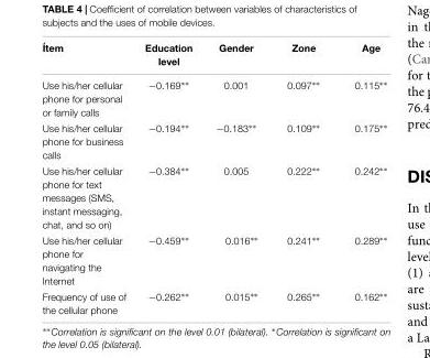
<table><thead><tr><td>Ítem</td><td>Education level</td><td>Gender</td><td>Zone</td><td>Age</td></tr></thead><tbody><tr><td>Use his/her cellular phone for personal or family calls</td><td>−0.169∗∗</td><td>0.001</td><td>0.097∗∗</td><td>0.115∗∗</td></tr><tr><td>Use his/her cellular phone for business calls</td><td>−0.194∗∗</td><td>−0.183∗∗</td><td>0.109∗∗</td><td>0.175∗∗</td></tr><tr><td>Use his/her cellular phone for text messages (SMS, instant messaging, chat, and so on)</td><td>−0.384∗∗</td><td>0.005</td><td>0.222∗∗</td><td>0.242∗∗</td></tr><tr><td>Use his/her cellular phone for navigating the Internet</td><td>−0.459∗∗</td><td>0.016∗∗</td><td>0.241∗∗</td><td>0.289∗∗</td></tr><tr><td>Frequency of use of the cellular phone</td><td>−0.262∗∗</td><td>0.015∗∗</td><td>0.265∗∗</td><td>0.162∗∗</td></tr></tbody></table>